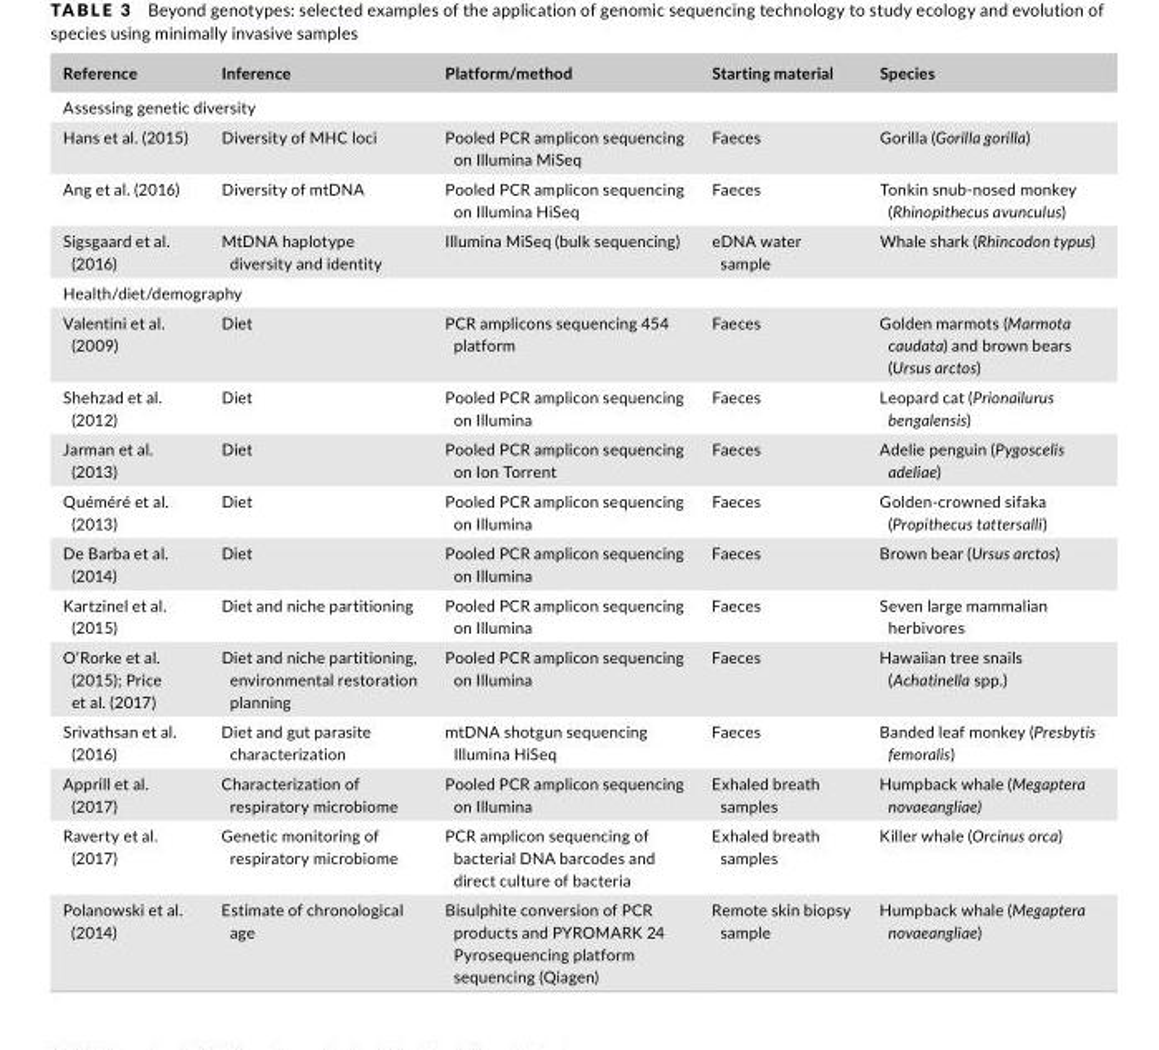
<table><thead><tr><td>Reference</td><td>Inference</td><td>Platform/method</td><td>Starting material</td><td>Species</td></tr></thead><tbody><tr><td colspan="5">Assessing genetic diversity</td></tr><tr><td>Hans et al. (2015)</td><td>Diversity of MHC loci</td><td>Pooled PCR amplicon sequencing on Illumina MiSeq</td><td>Faeces</td><td>Gorilla (Gorilla gorilla)</td></tr><tr><td>Ang et al. (2016)</td><td>Diversity of mtDNA</td><td>Pooled PCR amplicon sequencing on Illumina HiSeq</td><td>Faeces</td><td>Tonkin snub- nosed monkey (Rhinopithecus avunculus)</td></tr><tr><td>Sigsgaard et al. (2016)</td><td>MtDNA haplotype diversity and identity</td><td>Illumina MiSeq (bulk sequencing)</td><td>eDNA water sample</td><td>Whale shark (Rhincodon typus)</td></tr><tr><td colspan="5">Health/diet/demography</td></tr><tr><td>Valentini et al. (2009)</td><td>Diet</td><td>PCR amplicons sequencing 454 platform</td><td>Faeces</td><td>Golden marmots (Marmota caudata) and brown bears (Ursus arctos)</td></tr><tr><td>Shehzad et al. (2012)</td><td>Diet</td><td>Pooled PCR amplicon sequencing on Illumina</td><td>Faeces</td><td>Leopard cat (Prionailurus bengalensis)</td></tr><tr><td>Jarman et al. (2013)</td><td>Diet</td><td>Pooled PCR amplicon sequencing on Ion Torrent</td><td>Faeces</td><td>Adelie penguin (Pygoscelis adeliae)</td></tr><tr><td>Quéméré et al. (2013)</td><td>Diet</td><td>Pooled PCR amplicon sequencing on Illumina</td><td>Faeces</td><td>Golden- crowned sifaka (Propithecus tattersalli)</td></tr><tr><td>De Barba et al. (2014)</td><td>Diet</td><td>Pooled PCR amplicon sequencing on Illumina</td><td>Faeces</td><td>Brown bear (Ursus arctos)</td></tr><tr><td>Kartzinel et al. (2015)</td><td>Diet and niche partitioning</td><td>Pooled PCR amplicon sequencing on Illumina</td><td>Faeces</td><td>Seven large mammalian herbivores</td></tr><tr><td>O’Rorke et al. (2015); Price et al. (2017)</td><td>Diet and niche partitioning, environmental restoration planning</td><td>Pooled PCR amplicon sequencing on Illumina</td><td>Faeces</td><td>Hawaiian tree snails (Achatinella spp.)</td></tr><tr><td>Srivathsan et al. (2016)</td><td>Diet and gut parasite characterization</td><td>mtDNA shotgun sequencing Illumina HiSeq</td><td>Faeces</td><td>Banded leaf monkey (Presbytis femoralis)</td></tr><tr><td>Apprill et al. (2017)</td><td>Characterization of respiratory microbiome</td><td>Pooled PCR amplicon sequencing on Illumina</td><td>Exhaled breath samples</td><td>Humpback whale (Megaptera novaeangliae)</td></tr><tr><td>Raverty et al. (2017)</td><td>Genetic monitoring of respiratory microbiome</td><td>PCR amplicon sequencing of bacterial DNA barcodes and direct culture of bacteria</td><td>Exhaled breath samples</td><td>Killer whale (Orcinus orca)</td></tr><tr><td>Polanowski et al. (2014)</td><td>Estimate of chronological age</td><td>Bisulphite conversion of PCR products and PYROMARK 24 Pyrosequencing platform sequencing (Qiagen)</td><td>Remote skin biopsy sample</td><td>Humpback whale (Megaptera novaeangliae)</td></tr></tbody></table>